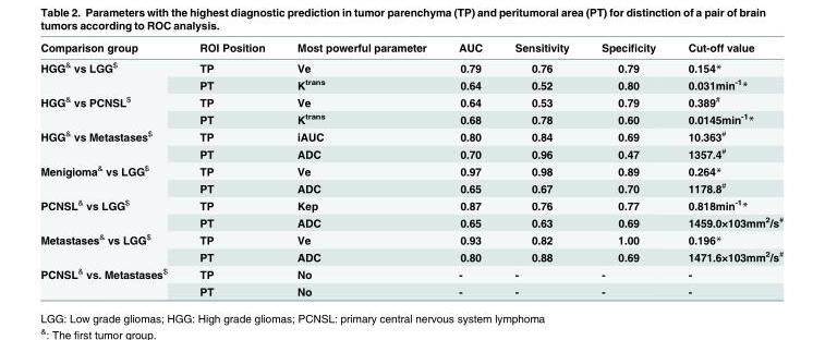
<table><thead><tr><td>Comparison group</td><td>ROI Position</td><td>Most powerful parameter</td><td>AUC</td><td>Sensitivity</td><td>Specificity</td><td>Cut-off value</td></tr></thead><tbody><tr><td rowspan="2">HGG<sup>&amp;</sup> vs LGG<sup>$</sup></td><td>TP</td><td>Ve</td><td>0.79</td><td>0.76</td><td>0.79</td><td>0.154*</td></tr><tr><td>PT</td><td>K<sup>trans</sup></td><td>0.64</td><td>0.52</td><td>0.80</td><td>0.031min<sup>-1</sup>*</td></tr><tr><td rowspan="2">HGG<sup>&amp;</sup> vs PCNSL<sup>$</sup></td><td>TP</td><td>Ve</td><td>0.64</td><td>0.53</td><td>0.79</td><td>0.389<sup>#</sup></td></tr><tr><td>PT</td><td>K<sup>trans</sup></td><td>0.68</td><td>0.78</td><td>0.60</td><td>0.0145min<sup>-1</sup>*</td></tr><tr><td rowspan="2">HGG<sup>&amp;</sup> vs Metastases<sup>$</sup></td><td>TP</td><td>iAUC</td><td>0.80</td><td>0.84</td><td>0.69</td><td>10.363<sup>#</sup></td></tr><tr><td>PT</td><td>ADC</td><td>0.70</td><td>0.96</td><td>0.47</td><td>1357.4<sup>#</sup></td></tr><tr><td rowspan="2">Menigioma<sup>&amp;</sup> vs LGG<sup>$</sup></td><td>TP</td><td>Ve</td><td>0.97</td><td>0.98</td><td>0.89</td><td>0.264*</td></tr><tr><td>PT</td><td>ADC</td><td>0.65</td><td>0.67</td><td>0.70</td><td>1178.8<sup>#</sup></td></tr><tr><td rowspan="2">PCNSL<sup>&amp;</sup> vs LGG<sup>$</sup></td><td>TP</td><td>Kep</td><td>0.87</td><td>0.76</td><td>0.77</td><td>0.818min<sup>-1</sup>*</td></tr><tr><td>PT</td><td>ADC</td><td>0.65</td><td>0.63</td><td>0.69</td><td>1459.0×103mm<sup>2</sup>/s<sup>#</sup></td></tr><tr><td rowspan="2">Metastases<sup>&amp;</sup> vs LGG<sup>$</sup></td><td>TP</td><td>Ve</td><td>0.93</td><td>0.82</td><td>1.00</td><td>0.196*</td></tr><tr><td>PT</td><td>ADC</td><td>0.80</td><td>0.88</td><td>0.69</td><td>1471.6×103mm<sup>2</sup>/s<sup>#</sup></td></tr><tr><td rowspan="2">PCNSL<sup>&amp;</sup> vs. Metastases<sup>$</sup></td><td>TP</td><td>No</td><td>-</td><td>-</td><td>-</td><td>-</td></tr><tr><td>PT</td><td>No</td><td>-</td><td>-</td><td>-</td><td>-</td></tr></tbody></table>